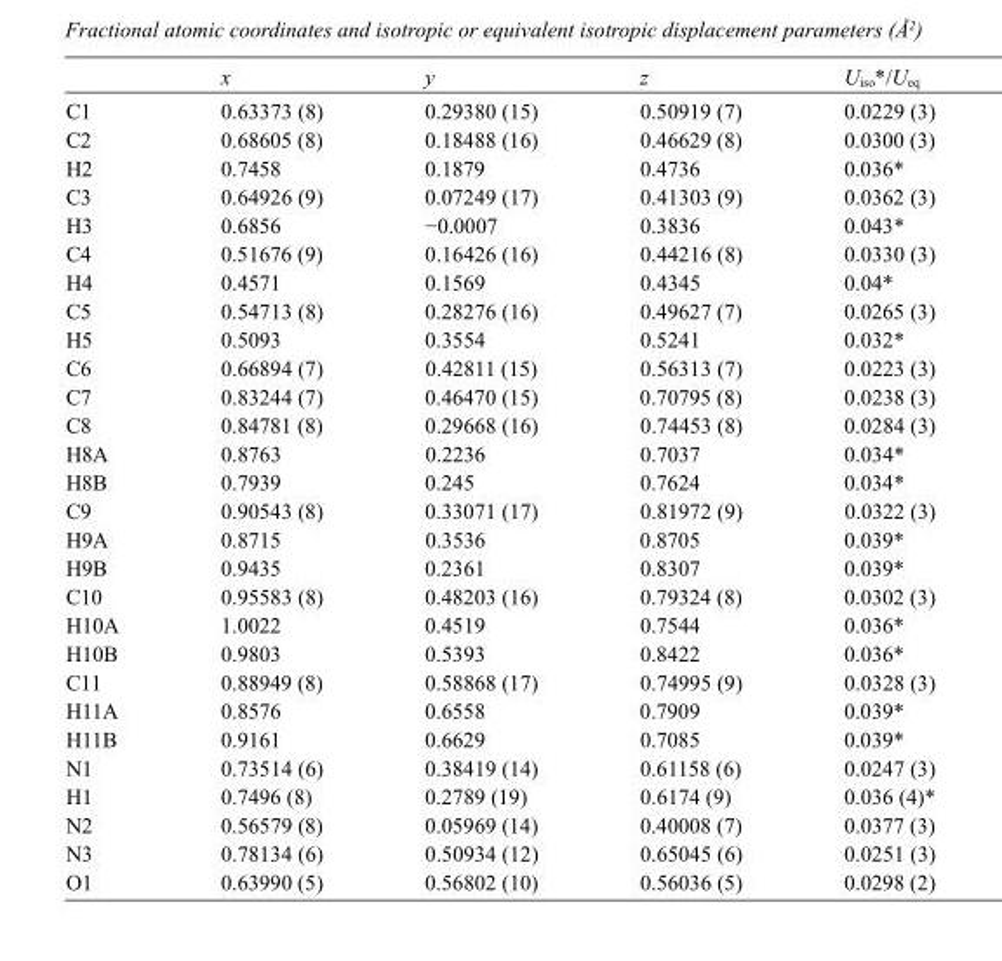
<table><thead><tr><td></td><td>x</td><td>y</td><td>z</td><td>U<sub>iso</sub>*/U<sub>eq</sub></td></tr></thead><tbody><tr><td>C1</td><td>0.63373 (8)</td><td>0.29380 (15)</td><td>0.50919 (7)</td><td>0.0229 (3)</td></tr><tr><td>C2</td><td>0.68605 (8)</td><td>0.18488 (16)</td><td>0.46629 (8)</td><td>0.0300 (3)</td></tr><tr><td>H2</td><td>0.7458</td><td>0.1879</td><td>0.4736</td><td>0.036*</td></tr><tr><td>C3</td><td>0.64926 (9)</td><td>0.07249 (17)</td><td>0.41303 (9)</td><td>0.0362 (3)</td></tr><tr><td>H3</td><td>0.6856</td><td>−0.0007</td><td>0.3836</td><td>0.043*</td></tr><tr><td>C4</td><td>0.51676 (9)</td><td>0.16426 (16)</td><td>0.44216 (8)</td><td>0.0330 (3)</td></tr><tr><td>H4</td><td>0.4571</td><td>0.1569</td><td>0.4345</td><td>0.04*</td></tr><tr><td>C5</td><td>0.54713 (8)</td><td>0.28276 (16)</td><td>0.49627 (7)</td><td>0.0265 (3)</td></tr><tr><td>H5</td><td>0.5093</td><td>0.3554</td><td>0.5241</td><td>0.032*</td></tr><tr><td>C6</td><td>0.66894 (7)</td><td>0.42811 (15)</td><td>0.56313 (7)</td><td>0.0223 (3)</td></tr><tr><td>C7</td><td>0.83244 (7)</td><td>0.46470 (15)</td><td>0.70795 (8)</td><td>0.0238 (3)</td></tr><tr><td>C8</td><td>0.84781 (8)</td><td>0.29668 (16)</td><td>0.74453 (8)</td><td>0.0284 (3)</td></tr><tr><td>H8A</td><td>0.8763</td><td>0.2236</td><td>0.7037</td><td>0.034*</td></tr><tr><td>H8B</td><td>0.7939</td><td>0.245</td><td>0.7624</td><td>0.034*</td></tr><tr><td>C9</td><td>0.90543 (8)</td><td>0.33071 (17)</td><td>0.81972 (9)</td><td>0.0322 (3)</td></tr><tr><td>H9A</td><td>0.8715</td><td>0.3536</td><td>0.8705</td><td>0.039*</td></tr><tr><td>H9B</td><td>0.9435</td><td>0.2361</td><td>0.8307</td><td>0.039*</td></tr><tr><td>C10</td><td>0.95583 (8)</td><td>0.48203 (16)</td><td>0.79324 (8)</td><td>0.0302 (3)</td></tr><tr><td>H10A</td><td>1.0022</td><td>0.4519</td><td>0.7544</td><td>0.036*</td></tr><tr><td>H10B</td><td>0.9803</td><td>0.5393</td><td>0.8422</td><td>0.036*</td></tr><tr><td>C11</td><td>0.88949 (8)</td><td>0.58868 (17)</td><td>0.74995 (9)</td><td>0.0328 (3)</td></tr><tr><td>H11A</td><td>0.8576</td><td>0.6558</td><td>0.7909</td><td>0.039*</td></tr><tr><td>H11B</td><td>0.9161</td><td>0.6629</td><td>0.7085</td><td>0.039*</td></tr><tr><td>N1</td><td>0.73514 (6)</td><td>0.38419 (14)</td><td>0.61158 (6)</td><td>0.0247 (3)</td></tr><tr><td>H1</td><td>0.7496 (8)</td><td>0.2789 (19)</td><td>0.6174 (9)</td><td>0.036 (4)*</td></tr><tr><td>N2</td><td>0.56579 (8)</td><td>0.05969 (14)</td><td>0.40008 (7)</td><td>0.0377 (3)</td></tr><tr><td>N3</td><td>0.78134 (6)</td><td>0.50934 (12)</td><td>0.65045 (6)</td><td>0.0251 (3)</td></tr><tr><td>O1</td><td>0.63990 (5)</td><td>0.56802 (10)</td><td>0.56036 (5)</td><td>0.0298 (2)</td></tr></tbody></table>